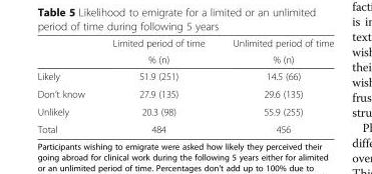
<table><thead><tr><td rowspan="2"></td><td rowspan="2">Limited period of time % (n)</td><td rowspan="2">Unlimited period of time % (n)</td></tr><tr></tr></thead><tbody><tr><td>Likely</td><td>51.9 (251)</td><td>14.5 (66)</td></tr><tr><td>Don’t know</td><td>27.9 (135)</td><td>29.6 (135)</td></tr><tr><td>Unlikely</td><td>20.3 (98)</td><td>55.9 (255)</td></tr><tr><td>Total</td><td>484</td><td>456</td></tr></tbody></table>